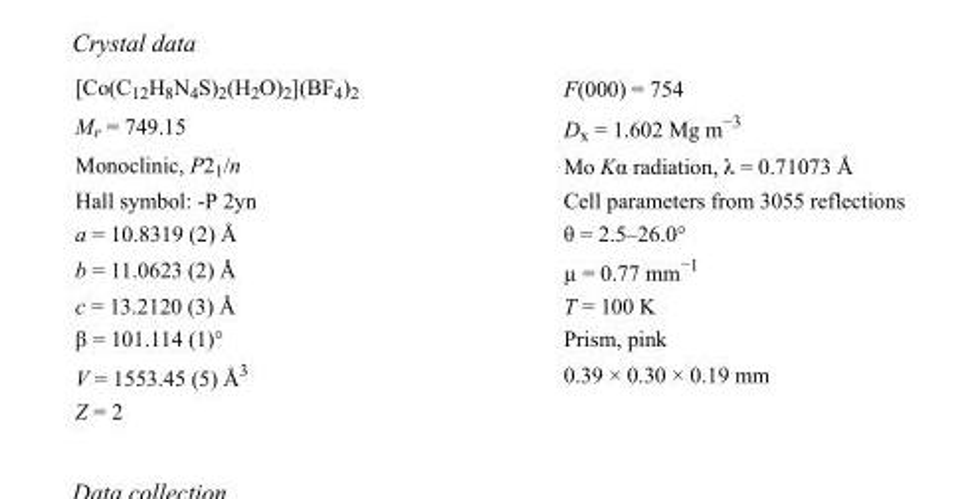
<table><tbody><tr><td>[Co(C<sub>12</sub>H<sub>8</sub>N<sub>4</sub>S)<sub>2</sub>(H<sub>2</sub>O)<sub>2</sub>](BF<sub>4</sub>)<sub>2</sub></td><td>F(000) = 754</td></tr><tr><td>M<sub>r</sub> = 749.15</td><td>D<sub>x</sub> = 1.602 Mg m<sup>−3</sup></td></tr><tr><td>Monoclinic, P2<sub>1</sub>/n</td><td>Mo Kα radiation, λ = 0.71073 Å</td></tr><tr><td>Hall symbol: -P 2yn</td><td>Cell parameters from 3055 reflections</td></tr><tr><td>a = 10.8319 (2) Å</td><td>θ = 2.5–26.0°</td></tr><tr><td>b = 11.0623 (2) Å</td><td>µ = 0.77 mm<sup>−1</sup></td></tr><tr><td>c = 13.2120 (3) Å</td><td>T = 100 K</td></tr><tr><td>β = 101.114 (1)°</td><td>Prism, pink</td></tr><tr><td>V = 1553.45 (5) Å<sup>3</sup></td><td>0.39 × 0.30 × 0.19 mm</td></tr><tr><td>Z = 2</td><td></td></tr></tbody></table>